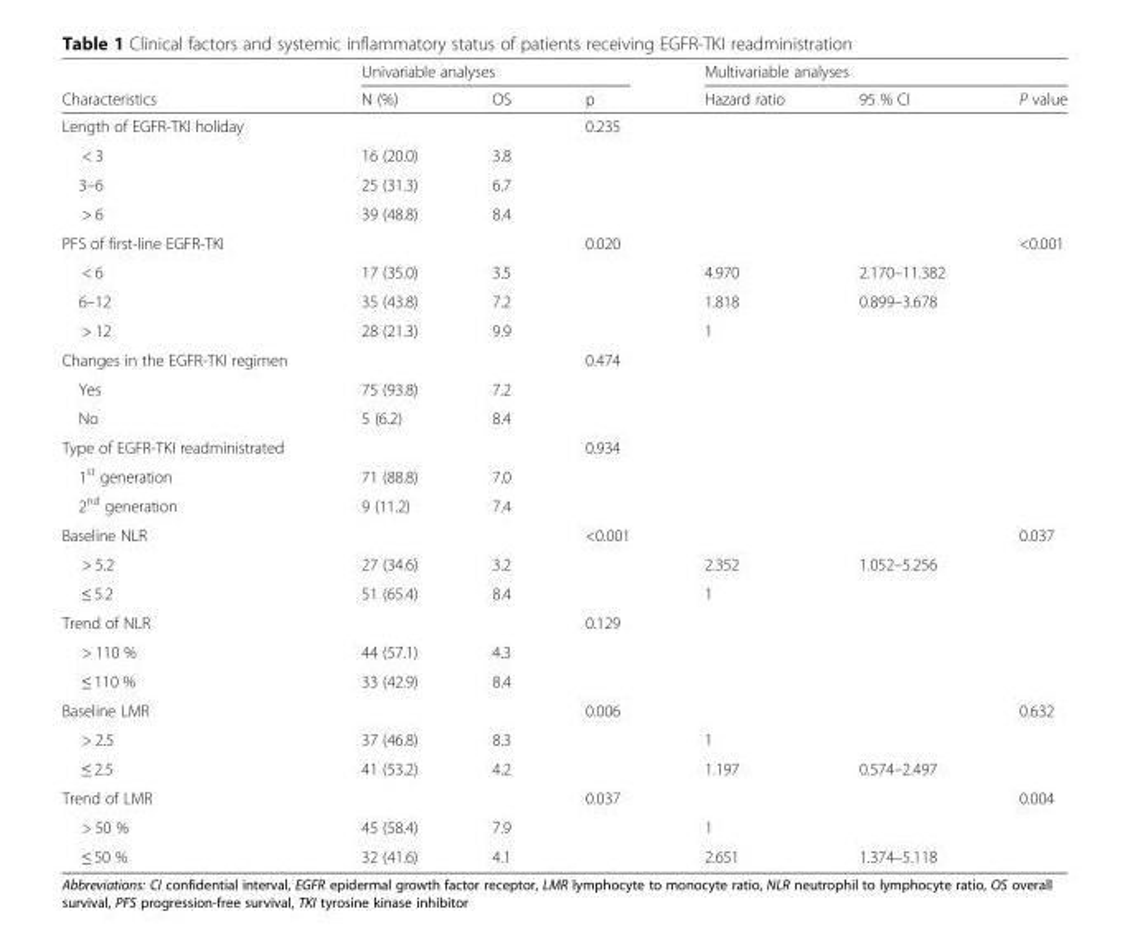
<table><thead><tr><td rowspan="2">Characteristics</td><td colspan="3">Univariable analyses</td><td colspan="3">Multivariable analyses</td></tr><tr><td>N (%)</td><td>OS</td><td>p</td><td>Hazard ratio</td><td>95 % CI</td><td>P value</td></tr></thead><tbody><tr><td>Length of EGFR-TKI holiday</td><td></td><td></td><td>0.235</td><td></td><td></td><td></td></tr><tr><td>&lt; 3</td><td>16 (20.0)</td><td>3.8</td><td></td><td></td><td></td><td></td></tr><tr><td>3–6</td><td>25 (31.3)</td><td>6.7</td><td></td><td></td><td></td><td></td></tr><tr><td>&gt; 6</td><td>39 (48.8)</td><td>8.4</td><td></td><td></td><td></td><td></td></tr><tr><td>PFS of first-line EGFR-TKI</td><td></td><td></td><td>0.020</td><td></td><td></td><td>&lt;0.001</td></tr><tr><td>&lt; 6</td><td>17 (35.0)</td><td>3.5</td><td></td><td>4.970</td><td>2.170–11.382</td><td></td></tr><tr><td>6–12</td><td>35 (43.8)</td><td>7.2</td><td></td><td>1.818</td><td>0.899–3.678</td><td></td></tr><tr><td>&gt; 12</td><td>28 (21.3)</td><td>9.9</td><td></td><td>1</td><td></td><td></td></tr><tr><td>Changes in the EGFR-TKI regimen</td><td></td><td></td><td>0.474</td><td></td><td></td><td></td></tr><tr><td>Yes</td><td>75 (93.8)</td><td>7.2</td><td></td><td></td><td></td><td></td></tr><tr><td>No</td><td>5 (6.2)</td><td>8.4</td><td></td><td></td><td></td><td></td></tr><tr><td>Type of EGFR-TKI readministrated</td><td></td><td></td><td>0.934</td><td></td><td></td><td></td></tr><tr><td>1<sup>st</sup> generation</td><td>71 (88.8)</td><td>7.0</td><td></td><td></td><td></td><td></td></tr><tr><td>2<sup>nd</sup> generation</td><td>9 (11.2)</td><td>7.4</td><td></td><td></td><td></td><td></td></tr><tr><td>Baseline NLR</td><td></td><td></td><td>&lt;0.001</td><td></td><td></td><td>0.037</td></tr><tr><td>&gt; 5.2</td><td>27 (34.6)</td><td>3.2</td><td></td><td>2.352</td><td>1.052–5.256</td><td></td></tr><tr><td>≤ 5.2</td><td>51 (65.4)</td><td>8.4</td><td></td><td>1</td><td></td><td></td></tr><tr><td>Trend of NLR</td><td></td><td></td><td>0.129</td><td></td><td></td><td></td></tr><tr><td>&gt; 110 %</td><td>44 (57.1)</td><td>4.3</td><td></td><td></td><td></td><td></td></tr><tr><td>≤ 110 %</td><td>33 (42.9)</td><td>8.4</td><td></td><td></td><td></td><td></td></tr><tr><td>Baseline LMR</td><td></td><td></td><td>0.006</td><td></td><td></td><td>0.632</td></tr><tr><td>&gt; 2.5</td><td>37 (46.8)</td><td>8.3</td><td></td><td>1</td><td></td><td></td></tr><tr><td>≤ 2.5</td><td>41 (53.2)</td><td>4.2</td><td></td><td>1.197</td><td>0.574–2.497</td><td></td></tr><tr><td>Trend of LMR</td><td></td><td></td><td>0.037</td><td></td><td></td><td>0.004</td></tr><tr><td>&gt; 50 %</td><td>45 (58.4)</td><td>7.9</td><td></td><td>1</td><td></td><td></td></tr><tr><td>≤ 50 %</td><td>32 (41.6)</td><td>4.1</td><td></td><td>2.651</td><td>1.374–5.118</td><td></td></tr></tbody></table>